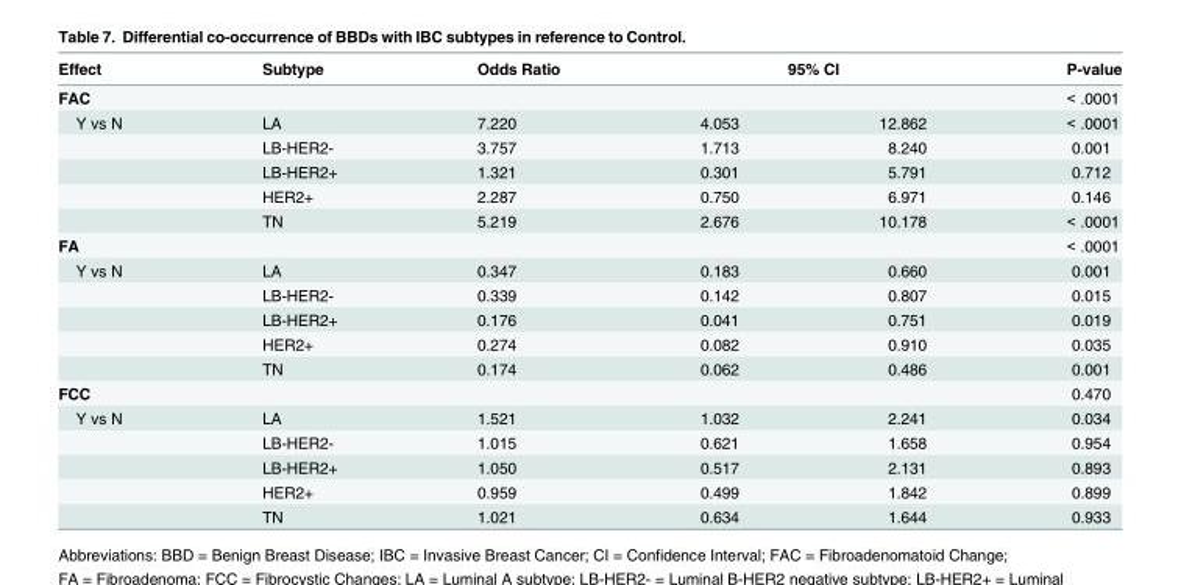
<table><thead><tr><td rowspan="2">Effect FAC</td><td rowspan="2">Subtype</td><td rowspan="2">Odds Ratio</td><td colspan="2">95% CI</td><td rowspan="2">P-value &lt; .0001</td></tr><tr><td></td><td></td></tr></thead><tbody><tr><td rowspan="5">Y vs N</td><td>LA</td><td>7.220</td><td>4.053</td><td>12.862</td><td>&lt; .0001</td></tr><tr><td>LB-HER2-</td><td>3.757</td><td>1.713</td><td>8.240</td><td>0.001</td></tr><tr><td>LB-HER2+</td><td>1.321</td><td>0.301</td><td>5.791</td><td>0.712</td></tr><tr><td>HER2+</td><td>2.287</td><td>0.750</td><td>6.971</td><td>0.146</td></tr><tr><td>TN</td><td>5.219</td><td>2.676</td><td>10.178</td><td>&lt; .0001</td></tr><tr><td>FA</td><td></td><td></td><td></td><td></td><td>&lt; .0001</td></tr><tr><td rowspan="5">Y vs N</td><td>LA</td><td>0.347</td><td>0.183</td><td>0.660</td><td>0.001</td></tr><tr><td>LB-HER2-</td><td>0.339</td><td>0.142</td><td>0.807</td><td>0.015</td></tr><tr><td>LB-HER2+</td><td>0.176</td><td>0.041</td><td>0.751</td><td>0.019</td></tr><tr><td>HER2+</td><td>0.274</td><td>0.082</td><td>0.910</td><td>0.035</td></tr><tr><td>TN</td><td>0.174</td><td>0.062</td><td>0.486</td><td>0.001</td></tr><tr><td>FCC</td><td></td><td></td><td></td><td></td><td>0.470</td></tr><tr><td rowspan="5">Y vs N</td><td>LA</td><td>1.521</td><td>1.032</td><td>2.241</td><td>0.034</td></tr><tr><td>LB-HER2-</td><td>1.015</td><td>0.621</td><td>1.658</td><td>0.954</td></tr><tr><td>LB-HER2+</td><td>1.050</td><td>0.517</td><td>2.131</td><td>0.893</td></tr><tr><td>HER2+</td><td>0.959</td><td>0.499</td><td>1.842</td><td>0.899</td></tr><tr><td>TN</td><td>1.021</td><td>0.634</td><td>1.644</td><td>0.933</td></tr></tbody></table>